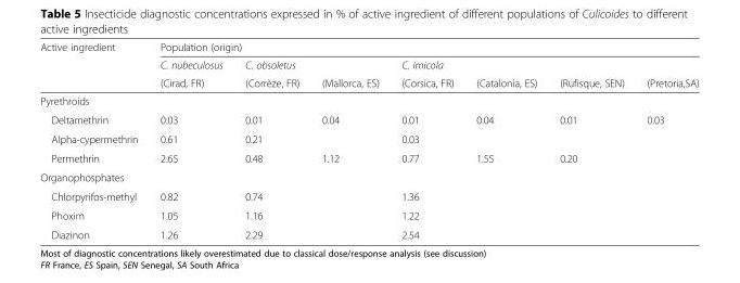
<table><thead><tr><td rowspan="3">Active ingredient</td><td colspan="7">Population (origin)</td></tr><tr><td rowspan="2">C. nubeculosus (Cirad, FR)</td><td rowspan="2">C. obsoletus (Corrèze, FR)</td><td rowspan="2">(Mallorca, ES)</td><td rowspan="2">C. imicola (Corsica, FR)</td><td rowspan="2">(Catalonia, ES)</td><td rowspan="2">(Rufisque, SEN)</td><td rowspan="2">(Pretoria,SA)</td></tr><tr></tr></thead><tbody><tr><td colspan="8">Pyrethroids</td></tr><tr><td>Deltamethrin</td><td>0.03</td><td>0.01</td><td>0.04</td><td>0.01</td><td>0.04</td><td>0.01</td><td>0.03</td></tr><tr><td>Alpha-cypermethrin</td><td>0.61</td><td>0.21</td><td></td><td>0.03</td><td></td><td></td><td></td></tr><tr><td>Permethrin</td><td>2.65</td><td>0.48</td><td>1.12</td><td>0.77</td><td>1.55</td><td>0.20</td><td></td></tr><tr><td colspan="8">Organophosphates</td></tr><tr><td>Chlorpyrifos-methyl</td><td>0.82</td><td>0.74</td><td></td><td>1.36</td><td></td><td></td><td></td></tr><tr><td>Phoxim</td><td>1.05</td><td>1.16</td><td></td><td>1.22</td><td></td><td></td><td></td></tr><tr><td>Diazinon</td><td>1.26</td><td>2.29</td><td></td><td>2.54</td><td></td><td></td><td></td></tr></tbody></table>